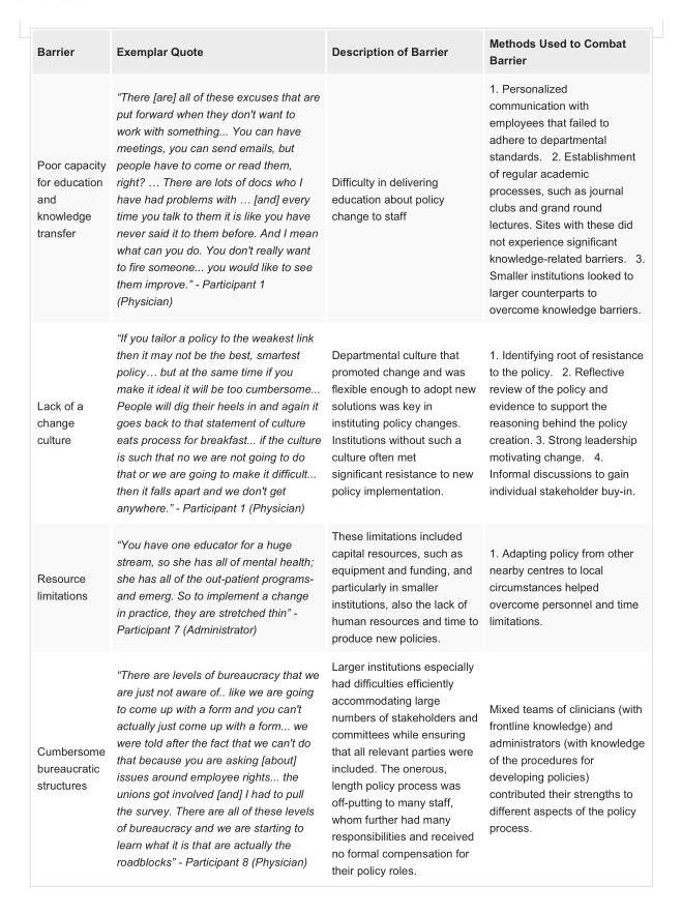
<table><tbody><tr><td>Barrier</td><td>Exemplar Quote</td><td>Description of Barrier</td><td>Methods Used to Combat Barrier</td></tr><tr><td>Poor capacity for education and knowledge transfer</td><td>“There [are] all of these excuses that are put forward when they don&#x27;t want to work with something... You can have meetings, you can send emails, but people have to come or read them, right? … There are lots of docs who I have had problems with … [and] every time you talk to them it is like you have never said it to them before. And I mean what can you do. You don&#x27;t really want to fire someone... you would like to see them improve.” - Participant 1 (Physician)</td><td>Difficulty in delivering education about policy change to staff</td><td>1. Personalized communication with employees that failed to adhere to departmental standards. 2. Establishment of regular academic processes, such as journal clubs and grand round lectures. Sites with these did not experience significant knowledge-related barriers. 3. Smaller institutions looked to larger counterparts to overcome knowledge barriers.</td></tr><tr><td>Lack of a change culture</td><td>“If you tailor a policy to the weakest link then it may not be the best, smartest policy… but at the same time if you make it ideal it will be too cumbersome... People will dig their heels in and again it goes back to that statement of culture eats process for breakfast... if the culture is such that no we are not going to do that or we are going to make it difficult... then it falls apart and we don&#x27;t get anywhere.” - Participant 1 (Physician)</td><td>Departmental culture that promoted change and was flexible enough to adopt new solutions was key in instituting policy changes. Institutions without such a culture often met significant resistance to new policy implementation.</td><td>1. Identifying root of resistance to the policy. 2. Reflective review of the policy and evidence to support the reasoning behind the policy creation. 3. Strong leadership motivating change. 4. Informal discussions to gain individual stakeholder buy-in.</td></tr><tr><td>Resource limitations</td><td>“You have one educator for a huge stream, so she has all of mental health; she has all of the out-patient programs- and emerg. So to implement a change in practice, they are stretched thin” - Participant 7 (Administrator)</td><td>These limitations included capital resources, such as equipment and funding, and particularly in smaller institutions, also the lack of human resources and time to produce new policies.</td><td>1. Adapting policy from other nearby centres to local circumstances helped overcome personnel and time limitations.</td></tr><tr><td>Cumbersome bureaucratic structures</td><td>“There are levels of bureaucracy that we are just not aware of.. like we are going to come up with a form and you can&#x27;t actually just come up with a form... we were told after the fact that we can&#x27;t do that because you are asking [about] issues around employee rights... the unions got involved [and] I had to pull the survey. There are all of these levels of bureaucracy and we are starting to learn what it is that are actually the roadblocks” - Participant 8 (Physician)</td><td>Larger institutions especially had difficulties efficiently accommodating large numbers of stakeholders and committees while ensuring that all relevant parties were included. The onerous, length policy process was off-putting to many staff, whom further had many responsibilities and received no formal compensation for their policy roles.</td><td>Mixed teams of clinicians (with frontline knowledge) and administrators (with knowledge of the procedures for developing policies) contributed their strengths to different aspects of the policy process.</td></tr></tbody></table>